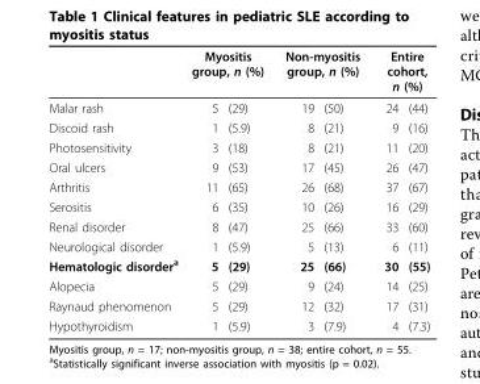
<table><thead><tr><td rowspan="2">Malar rash</td><td colspan="2">Myositis group, n (%)</td><td colspan="2">Non-myositis group, n (%)</td><td colspan="2">Entire cohort, n (%)</td></tr><tr><td>5</td><td>(29)</td><td>19</td><td>(50)</td><td>24</td><td>(44)</td></tr></thead><tbody><tr><td>Discoid rash</td><td>1</td><td>(5.9)</td><td>8</td><td>(21)</td><td>9</td><td>(16)</td></tr><tr><td>Photosensitivity</td><td>3</td><td>(18)</td><td>8</td><td>(21)</td><td>11</td><td>(20)</td></tr><tr><td>Oral ulcers</td><td>9</td><td>(53)</td><td>17</td><td>(45)</td><td>26</td><td>(47)</td></tr><tr><td>Arthritis</td><td>11</td><td>(65)</td><td>26</td><td>(68)</td><td>37</td><td>(67)</td></tr><tr><td>Serositis</td><td>6</td><td>(35)</td><td>10</td><td>(26)</td><td>16</td><td>(29)</td></tr><tr><td>Renal disorder</td><td>8</td><td>(47)</td><td>25</td><td>(66)</td><td>33</td><td>(60)</td></tr><tr><td>Neurological disorder</td><td>1</td><td>(5.9)</td><td>5</td><td>(13)</td><td>6</td><td>(11)</td></tr><tr><td>Hematologic disorder<sup>a</sup></td><td>5</td><td>(29)</td><td>25</td><td>(66)</td><td>30</td><td>(55)</td></tr><tr><td>Alopecia</td><td>5</td><td>(29)</td><td>9</td><td>(24)</td><td>14</td><td>(25)</td></tr><tr><td>Raynaud phenomenon</td><td>5</td><td>(29)</td><td>12</td><td>(32)</td><td>17</td><td>(31)</td></tr><tr><td>Hypothyroidism</td><td>1</td><td>(5.9)</td><td>3</td><td>(7.9)</td><td>4</td><td>(7.3)</td></tr></tbody></table>